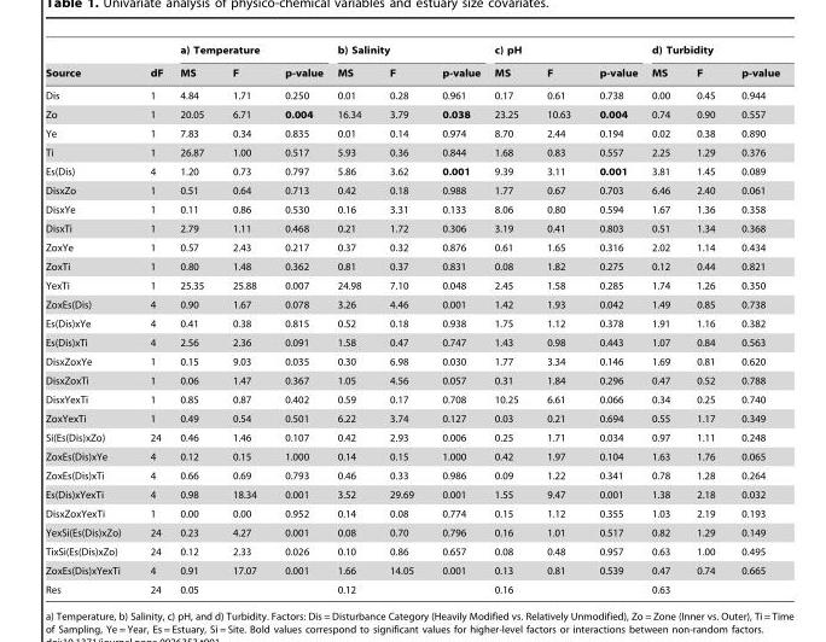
<table><thead><tr><td rowspan="2">Source</td><td rowspan="2">dF</td><td colspan="3">a) Temperature</td><td colspan="3">b) Salinity</td><td colspan="3">c) pH</td><td colspan="3">d) Turbidity</td></tr><tr><td>MS</td><td>F</td><td>p-value</td><td>MS</td><td>F</td><td>p-value</td><td>MS</td><td>F</td><td>p-value</td><td>MS</td><td>F</td><td>p-value</td></tr></thead><tbody><tr><td>Dis</td><td>1</td><td>4.84</td><td>1.71</td><td>0.250</td><td>0.01</td><td>0.28</td><td>0.961</td><td>0.17</td><td>0.61</td><td>0.738</td><td>0.00</td><td>0.45</td><td>0.944</td></tr><tr><td>Zo</td><td>1</td><td>20.05</td><td>6.71</td><td>0.004</td><td>16.34</td><td>3.79</td><td>0.038</td><td>23.25</td><td>10.63</td><td>0.004</td><td>0.74</td><td>0.90</td><td>0.557</td></tr><tr><td>Ye</td><td>1</td><td>7.83</td><td>0.34</td><td>0.835</td><td>0.01</td><td>0.14</td><td>0.974</td><td>8.70</td><td>2.44</td><td>0.194</td><td>0.02</td><td>0.38</td><td>0.890</td></tr><tr><td>Ti</td><td>1</td><td>26.87</td><td>1.00</td><td>0.517</td><td>5.93</td><td>0.36</td><td>0.844</td><td>1.68</td><td>0.83</td><td>0.557</td><td>2.25</td><td>1.29</td><td>0.376</td></tr><tr><td>Es(Dis)</td><td>4</td><td>1.20</td><td>0.73</td><td>0.797</td><td>5.86</td><td>3.62</td><td>0.001</td><td>9.39</td><td>3.11</td><td>0.001</td><td>3.81</td><td>1.45</td><td>0.089</td></tr><tr><td>DisxZo</td><td>1</td><td>0.51</td><td>0.64</td><td>0.713</td><td>0.42</td><td>0.18</td><td>0.988</td><td>1.77</td><td>0.67</td><td>0.703</td><td>6.46</td><td>2.40</td><td>0.061</td></tr><tr><td>DisxYe</td><td>1</td><td>0.11</td><td>0.86</td><td>0.530</td><td>0.16</td><td>3.31</td><td>0.133</td><td>8.06</td><td>0.80</td><td>0.594</td><td>1.67</td><td>1.36</td><td>0.358</td></tr><tr><td>DisxTi</td><td>1</td><td>2.79</td><td>1.11</td><td>0.468</td><td>0.21</td><td>1.72</td><td>0.306</td><td>3.19</td><td>0.41</td><td>0.803</td><td>0.51</td><td>1.34</td><td>0.368</td></tr><tr><td>ZoxYe</td><td>1</td><td>0.57</td><td>2.43</td><td>0.217</td><td>0.37</td><td>0.32</td><td>0.876</td><td>0.61</td><td>1.65</td><td>0.316</td><td>2.02</td><td>1.14</td><td>0.434</td></tr><tr><td>ZoxTi</td><td>1</td><td>0.80</td><td>1.48</td><td>0.362</td><td>0.81</td><td>0.37</td><td>0.831</td><td>0.08</td><td>1.82</td><td>0.275</td><td>0.12</td><td>0.44</td><td>0.821</td></tr><tr><td>YexTi</td><td>1</td><td>25.35</td><td>25.88</td><td>0.007</td><td>24.98</td><td>7.10</td><td>0.048</td><td>2.45</td><td>1.58</td><td>0.285</td><td>1.74</td><td>1.26</td><td>0.350</td></tr><tr><td>ZoxEs(Dis)</td><td>4</td><td>0.90</td><td>1.67</td><td>0.078</td><td>3.26</td><td>4.46</td><td>0.001</td><td>1.42</td><td>1.93</td><td>0.042</td><td>1.49</td><td>0.85</td><td>0.738</td></tr><tr><td>Es(Dis)xYe</td><td>4</td><td>0.41</td><td>0.38</td><td>0.815</td><td>0.52</td><td>0.18</td><td>0.938</td><td>1.75</td><td>1.12</td><td>0.378</td><td>1.91</td><td>1.16</td><td>0.382</td></tr><tr><td>Es(Dis)xTi</td><td>4</td><td>2.56</td><td>2.36</td><td>0.091</td><td>1.58</td><td>0.47</td><td>0.747</td><td>1.43</td><td>0.98</td><td>0.443</td><td>1.07</td><td>0.84</td><td>0.563</td></tr><tr><td>DisxZoxYe</td><td>1</td><td>0.15</td><td>9.03</td><td>0.035</td><td>0.30</td><td>6.98</td><td>0.030</td><td>1.77</td><td>3.34</td><td>0.146</td><td>1.69</td><td>0.81</td><td>0.620</td></tr><tr><td>DisxZoxTi</td><td>1</td><td>0.06</td><td>1.47</td><td>0.367</td><td>1.05</td><td>4.56</td><td>0.057</td><td>0.31</td><td>1.84</td><td>0.296</td><td>0.47</td><td>0.52</td><td>0.788</td></tr><tr><td>DisxYexTi</td><td>1</td><td>0.85</td><td>0.87</td><td>0.402</td><td>0.59</td><td>0.17</td><td>0.708</td><td>10.25</td><td>6.61</td><td>0.066</td><td>0.34</td><td>0.25</td><td>0.740</td></tr><tr><td>ZoxYexTi</td><td>1</td><td>0.49</td><td>0.54</td><td>0.501</td><td>6.22</td><td>3.74</td><td>0.127</td><td>0.03</td><td>0.21</td><td>0.694</td><td>0.55</td><td>1.17</td><td>0.349</td></tr><tr><td>Si(Es(Dis)xZo)</td><td>24</td><td>0.46</td><td>1.46</td><td>0.107</td><td>0.42</td><td>2.93</td><td>0.006</td><td>0.25</td><td>1.71</td><td>0.034</td><td>0.97</td><td>1.11</td><td>0.248</td></tr><tr><td>ZoxEs(Dis)xYe</td><td>4</td><td>0.12</td><td>0.15</td><td>1.000</td><td>0.14</td><td>0.15</td><td>1.000</td><td>0.42</td><td>1.97</td><td>0.104</td><td>1.63</td><td>1.76</td><td>0.065</td></tr><tr><td>ZoxEs(Dis)xTi</td><td>4</td><td>0.66</td><td>0.69</td><td>0.793</td><td>0.46</td><td>0.33</td><td>0.986</td><td>0.09</td><td>1.22</td><td>0.341</td><td>0.78</td><td>1.28</td><td>0.264</td></tr><tr><td>Es(Dis)xYexTi</td><td>4</td><td>0.98</td><td>18.34</td><td>0.001</td><td>3.52</td><td>29.69</td><td>0.001</td><td>1.55</td><td>9.47</td><td>0.001</td><td>1.38</td><td>2.18</td><td>0.032</td></tr><tr><td>DisxZoxYexTi</td><td>1</td><td>0.00</td><td>0.00</td><td>0.952</td><td>0.14</td><td>0.08</td><td>0.774</td><td>0.15</td><td>1.12</td><td>0.355</td><td>1.03</td><td>2.19</td><td>0.193</td></tr><tr><td>YexSi(Es(Dis)xZo)</td><td>24</td><td>0.23</td><td>4.27</td><td>0.001</td><td>0.08</td><td>0.70</td><td>0.796</td><td>0.16</td><td>1.01</td><td>0.517</td><td>0.82</td><td>1.29</td><td>0.149</td></tr><tr><td>TixSi(Es(Dis)xZo)</td><td>24</td><td>0.12</td><td>2.33</td><td>0.026</td><td>0.10</td><td>0.86</td><td>0.657</td><td>0.08</td><td>0.48</td><td>0.957</td><td>0.63</td><td>1.00</td><td>0.495</td></tr><tr><td>ZoxEs(Dis)xYexTi</td><td>4</td><td>0.91</td><td>17.07</td><td>0.001</td><td>1.66</td><td>14.05</td><td>0.001</td><td>0.13</td><td>0.81</td><td>0.539</td><td>0.47</td><td>0.74</td><td>0.665</td></tr><tr><td>Res</td><td>24</td><td>0.05</td><td></td><td></td><td>0.12</td><td></td><td></td><td>0.16</td><td></td><td></td><td>0.63</td><td></td><td></td></tr></tbody></table>